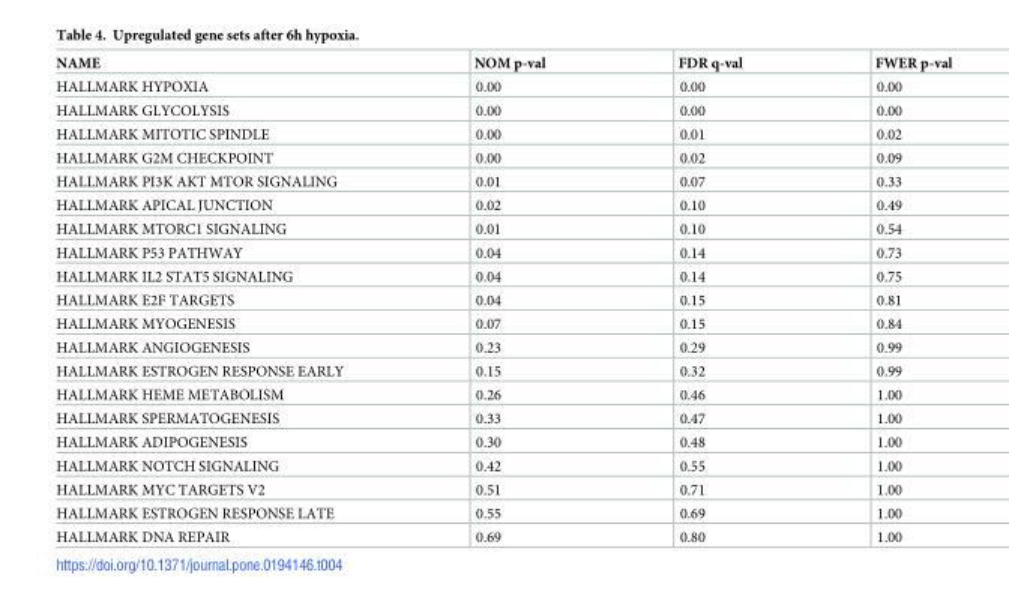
<table><thead><tr><td>NAME</td><td>NOM p-val</td><td>FDR q-val</td><td>FWER p-val</td></tr></thead><tbody><tr><td>HALLMARK HYPOXIA</td><td>0.00</td><td>0.00</td><td>0.00</td></tr><tr><td>HALLMARK GLYCOLYSIS</td><td>0.00</td><td>0.00</td><td>0.00</td></tr><tr><td>HALLMARK MITOTIC SPINDLE</td><td>0.00</td><td>0.01</td><td>0.02</td></tr><tr><td>HALLMARK G2M CHECKPOINT</td><td>0.00</td><td>0.02</td><td>0.09</td></tr><tr><td>HALLMARK PI3K AKT MTOR SIGNALING</td><td>0.01</td><td>0.07</td><td>0.33</td></tr><tr><td>HALLMARK APICAL JUNCTION</td><td>0.02</td><td>0.10</td><td>0.49</td></tr><tr><td>HALLMARK MTORC1 SIGNALING</td><td>0.01</td><td>0.10</td><td>0.54</td></tr><tr><td>HALLMARK P53 PATHWAY</td><td>0.04</td><td>0.14</td><td>0.73</td></tr><tr><td>HALLMARK IL2 STAT5 SIGNALING</td><td>0.04</td><td>0.14</td><td>0.75</td></tr><tr><td>HALLMARK E2F TARGETS</td><td>0.04</td><td>0.15</td><td>0.81</td></tr><tr><td>HALLMARK MYOGENESIS</td><td>0.07</td><td>0.15</td><td>0.84</td></tr><tr><td>HALLMARK ANGIOGENESIS</td><td>0.23</td><td>0.29</td><td>0.99</td></tr><tr><td>HALLMARK ESTROGEN RESPONSE EARLY</td><td>0.15</td><td>0.32</td><td>0.99</td></tr><tr><td>HALLMARK HEME METABOLISM</td><td>0.26</td><td>0.46</td><td>1.00</td></tr><tr><td>HALLMARK SPERMATOGENESIS</td><td>0.33</td><td>0.47</td><td>1.00</td></tr><tr><td>HALLMARK ADIPOGENESIS</td><td>0.30</td><td>0.48</td><td>1.00</td></tr><tr><td>HALLMARK NOTCH SIGNALING</td><td>0.42</td><td>0.55</td><td>1.00</td></tr><tr><td>HALLMARK MYC TARGETS V2</td><td>0.51</td><td>0.71</td><td>1.00</td></tr><tr><td>HALLMARK ESTROGEN RESPONSE LATE</td><td>0.55</td><td>0.69</td><td>1.00</td></tr><tr><td>HALLMARK DNA REPAIR</td><td>0.69</td><td>0.80</td><td>1.00</td></tr></tbody></table>